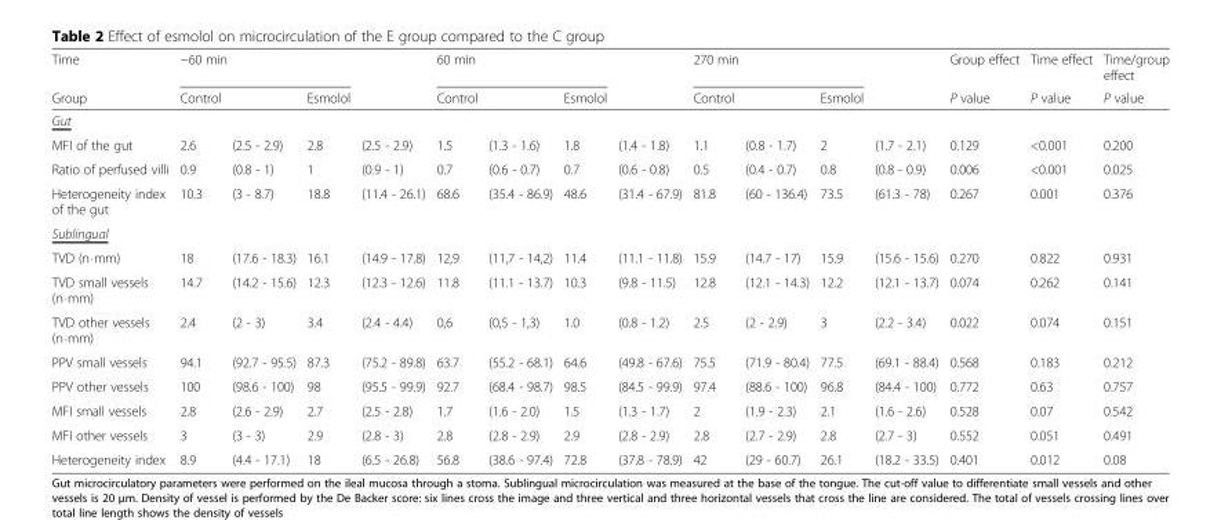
<table><thead><tr><td rowspan="2">Time Group</td><td colspan="3">−60 min</td><td rowspan="2"></td><td colspan="3">60 min</td><td rowspan="2"></td><td colspan="3">270 min</td><td rowspan="2"></td><td rowspan="2">Group effect P value</td><td rowspan="2">Time effect P value</td><td rowspan="2">Time/group effect P value</td></tr><tr><td>Control</td><td></td><td>Esmolol</td><td>Control</td><td></td><td>Esmolol</td><td>Control</td><td></td><td>Esmolol</td></tr></thead><tbody><tr><td colspan="16">Gut</td></tr><tr><td>MFI of the gut</td><td>2.6</td><td>(2.5 - 2.9)</td><td>2.8</td><td>(2.5 - 2.9)</td><td>1.5</td><td>(1.3 - 1.6)</td><td>1.8</td><td>(1.4 - 1.8)</td><td>1.1</td><td>(0.8 - 1.7)</td><td>2</td><td>(1.7 - 2.1)</td><td>0.129</td><td>&lt;0.001</td><td>0.200</td></tr><tr><td>Ratio of perfused villi</td><td>0.9</td><td>(0.8 - 1)</td><td>1</td><td>(0.9 - 1)</td><td>0.7</td><td>(0.6 - 0.7)</td><td>0.7</td><td>(0.6 - 0.8)</td><td>0.5</td><td>(0.4 - 0.7)</td><td>0.8</td><td>(0.8 - 0.9)</td><td>0.006</td><td>&lt;0.001</td><td>0.025</td></tr><tr><td>Heterogeneity index of the gut</td><td>10.3</td><td>(3 - 8.7)</td><td>18.8</td><td>(11.4 - 26.1)</td><td>68.6</td><td>(35.4 - 86.9)</td><td>48.6</td><td>(31.4 - 67.9)</td><td>81.8</td><td>(60 - 136.4)</td><td>73.5</td><td>(61.3 - 78)</td><td>0.267</td><td>0.001</td><td>0.376</td></tr><tr><td colspan="16">Sublingual</td></tr><tr><td>TVD (n⋅mm)</td><td>18</td><td>(17.6 - 18.3)</td><td>16.1</td><td>(14.9 - 17.8)</td><td>12,9</td><td>(11,7 - 14,2)</td><td>11.4</td><td>(11.1 - 11.8)</td><td>15.9</td><td>(14.7 - 17)</td><td>15.9</td><td>(15.6 - 15.6)</td><td>0.270</td><td>0.822</td><td>0.931</td></tr><tr><td>TVD small vessels (n⋅mm)</td><td>14.7</td><td>(14.2 - 15.6)</td><td>12.3</td><td>(12.3 - 12.6)</td><td>11.8</td><td>(11.1 - 13.7)</td><td>10.3</td><td>(9.8 - 11.5)</td><td>12.8</td><td>(12.1 - 14.3)</td><td>12.2</td><td>(12.1 - 13.7)</td><td>0.074</td><td>0.262</td><td>0.141</td></tr><tr><td>TVD other vessels (n⋅mm)</td><td>2.4</td><td>(2 - 3)</td><td>3.4</td><td>(2.4 - 4.4)</td><td>0,6</td><td>(0,5 - 1,3)</td><td>1.0</td><td>(0.8 - 1.2)</td><td>2.5</td><td>(2 - 2.9)</td><td>3</td><td>(2.2 - 3.4)</td><td>0.022</td><td>0.074</td><td>0.151</td></tr><tr><td>PPV small vessels</td><td>94.1</td><td>(92.7 - 95.5)</td><td>87.3</td><td>(75.2 - 89.8)</td><td>63.7</td><td>(55.2 - 68.1)</td><td>64.6</td><td>(49.8 - 67.6)</td><td>75.5</td><td>(71.9 - 80.4)</td><td>77.5</td><td>(69.1 - 88.4)</td><td>0.568</td><td>0.183</td><td>0.212</td></tr><tr><td>PPV other vessels</td><td>100</td><td>(98.6 - 100)</td><td>98</td><td>(95.5 - 99.9)</td><td>92.7</td><td>(68.4 - 98.7)</td><td>98.5</td><td>(84.5 - 99.9)</td><td>97.4</td><td>(88.6 - 100)</td><td>96.8</td><td>(84.4 - 100)</td><td>0.772</td><td>0.63</td><td>0.757</td></tr><tr><td>MFI small vessels</td><td>2.8</td><td>(2.6 - 2.9)</td><td>2.7</td><td>(2.5 - 2.8)</td><td>1.7</td><td>(1.6 - 2.0)</td><td>1.5</td><td>(1.3 - 1.7)</td><td>2</td><td>(1.9 - 2.3)</td><td>2.1</td><td>(1.6 - 2.6)</td><td>0.528</td><td>0.07</td><td>0.542</td></tr><tr><td>MFI other vessels</td><td>3</td><td>(3 - 3)</td><td>2.9</td><td>(2.8 - 3)</td><td>2.8</td><td>(2.8 - 2.9)</td><td>2.9</td><td>(2.8 - 2.9)</td><td>2.8</td><td>(2.7 - 2.9)</td><td>2.8</td><td>(2.7 - 3)</td><td>0.552</td><td>0.051</td><td>0.491</td></tr><tr><td>Heterogeneity index</td><td>8.9</td><td>(4.4 - 17.1)</td><td>18</td><td>(6.5 - 26.8)</td><td>56.8</td><td>(38.6 - 97.4)</td><td>72.8</td><td>(37.8 - 78.9)</td><td>42</td><td>(29 - 60.7)</td><td>26.1</td><td>(18.2 - 33.5)</td><td>0.401</td><td>0.012</td><td>0.08</td></tr></tbody></table>